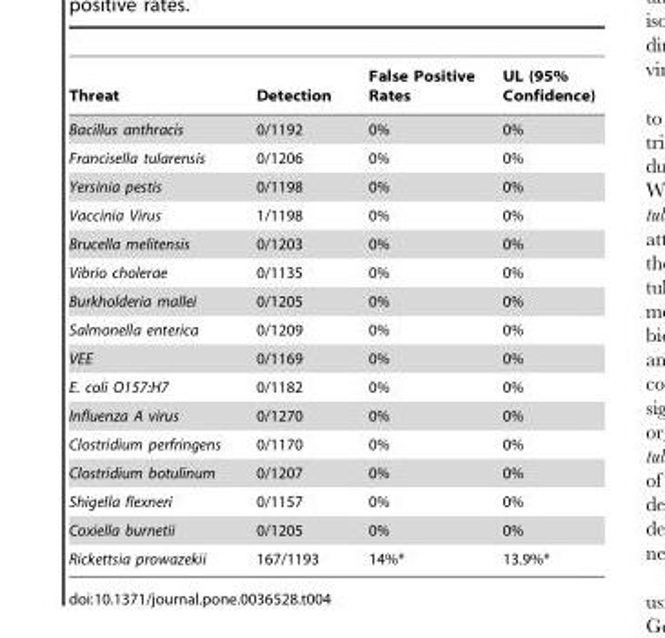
<table><thead><tr><td>Threat</td><td>Detection</td><td>False Positive Rates</td><td>UL (95% Confidence)</td></tr></thead><tbody><tr><td>Bacillus anthracis</td><td>0/1192</td><td>0%</td><td>0%</td></tr><tr><td>Francisella tularensis</td><td>0/1206</td><td>0%</td><td>0%</td></tr><tr><td>Yersinia pestis</td><td>0/1198</td><td>0%</td><td>0%</td></tr><tr><td>Vaccinia Virus</td><td>1/1198</td><td>0%</td><td>0%</td></tr><tr><td>Brucella melitensis</td><td>0/1203</td><td>0%</td><td>0%</td></tr><tr><td>Vibrio cholerae</td><td>0/1135</td><td>0%</td><td>0%</td></tr><tr><td>Burkholderia mallei</td><td>0/1205</td><td>0%</td><td>0%</td></tr><tr><td>Salmonella enterica</td><td>0/1209</td><td>0%</td><td>0%</td></tr><tr><td>VEE</td><td>0/1169</td><td>0%</td><td>0%</td></tr><tr><td>E. coli O157:H7</td><td>0/1182</td><td>0%</td><td>0%</td></tr><tr><td>Influenza A virus</td><td>0/1270</td><td>0%</td><td>0%</td></tr><tr><td>Clostridium perfringens</td><td>0/1170</td><td>0%</td><td>0%</td></tr><tr><td>Clostridium botulinum</td><td>0/1207</td><td>0%</td><td>0%</td></tr><tr><td>Shigella flexneri</td><td>0/1157</td><td>0%</td><td>0%</td></tr><tr><td>Coxiella burnetii</td><td>0/1205</td><td>0%</td><td>0%</td></tr><tr><td>Rickettsia prowazekii</td><td>167/1193</td><td>14%*</td><td>13.9%*</td></tr></tbody></table>